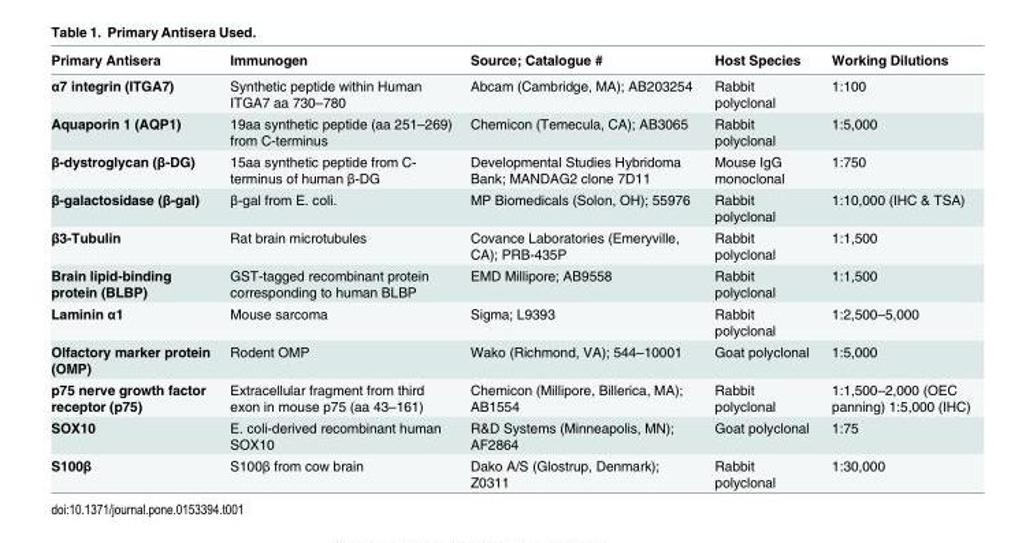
<table><thead><tr><td>Primary Antisera</td><td>Immunogen</td><td>Source; Catalogue #</td><td>Host Species</td><td>Working Dilutions</td></tr></thead><tbody><tr><td>α7 integrin (ITGA7)</td><td>Synthetic peptide within Human ITGA7 aa 730–780</td><td>Abcam (Cambridge, MA); AB203254</td><td>Rabbit polyclonal</td><td>1:100</td></tr><tr><td>Aquaporin 1 (AQP1)</td><td>19aa synthetic peptide (aa 251–269) from C-terminus</td><td>Chemicon (Temecula, CA); AB3065</td><td>Rabbit polyclonal</td><td>1:5,000</td></tr><tr><td>β-dystroglycan (β-DG)</td><td>15aa synthetic peptide from C- terminus of human β-DG</td><td>Developmental Studies Hybridoma Bank; MANDAG2 clone 7D11</td><td>Mouse IgG monoclonal</td><td>1:750</td></tr><tr><td>β-galactosidase (β-gal)</td><td>β-gal from E. coli.</td><td>MP Biomedicals (Solon, OH); 55976</td><td>Rabbit polyclonal</td><td>1:10,000 (IHC &amp; TSA)</td></tr><tr><td>β3-Tubulin</td><td>Rat brain microtubules</td><td>Covance Laboratories (Emeryville, CA); PRB-435P</td><td>Rabbit polyclonal</td><td>1:1,500</td></tr><tr><td>Brain lipid-binding protein (BLBP)</td><td>GST-tagged recombinant protein corresponding to human BLBP</td><td>EMD Millipore; AB9558</td><td>Rabbit polyclonal</td><td>1:1,500</td></tr><tr><td>Laminin α1</td><td>Mouse sarcoma</td><td>Sigma; L9393</td><td>Rabbit polyclonal</td><td>1:2,500–5,000</td></tr><tr><td>Olfactory marker protein (OMP)</td><td>Rodent OMP</td><td>Wako (Richmond, VA); 544–10001</td><td>Goat polyclonal</td><td>1:5,000</td></tr><tr><td>p75 nerve growth factor receptor (p75)</td><td>Extracellular fragment from third exon in mouse p75 (aa 43–161)</td><td>Chemicon (Millipore, Billerica, MA); AB1554</td><td>Rabbit polyclonal</td><td>1:1,500–2,000 (OEC panning) 1:5,000 (IHC)</td></tr><tr><td>SOX10</td><td>E. coli-derived recombinant human SOX10</td><td>R&amp;D Systems (Minneapolis, MN); AF2864</td><td>Goat polyclonal</td><td>1:75</td></tr><tr><td>S100β</td><td>S100β from cow brain</td><td>Dako A/S (Glostrup, Denmark); Z0311</td><td>Rabbit polyclonal</td><td>1:30,000</td></tr></tbody></table>